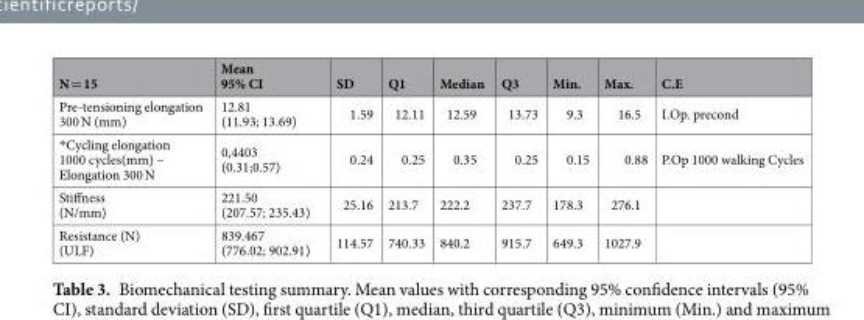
<table><thead><tr><td>N = 15</td><td>Mean 95% CI</td><td>SD</td><td>Q1</td><td>Median</td><td>Q3</td><td>Min.</td><td>Max.</td><td>C.E</td></tr></thead><tbody><tr><td>Pre-tensioning elongation 300 N (mm)</td><td>12.81 (11.93; 13.69)</td><td>1.59</td><td>12.11</td><td>12.59</td><td>13.73</td><td>9.3</td><td>16.5</td><td>I.Op. precond</td></tr><tr><td>*Cycling elongation 1000 cycles(mm) – Elongation 300 N</td><td>0,4403 (0.31;0.57)</td><td>0.24</td><td>0.25</td><td>0.35</td><td>0.25</td><td>0.15</td><td>0.88</td><td>P.Op 1000 walking Cycles</td></tr><tr><td>Stiffness (N/mm)</td><td>221.50 (207.57; 235.43)</td><td>25.16</td><td>213.7</td><td>222.2</td><td>237.7</td><td>178.3</td><td>276.1</td><td></td></tr><tr><td>Resistance (N) (ULF)</td><td>839.467 (776.02; 902.91)</td><td>114.57</td><td>740.33</td><td>840.2</td><td>915.7</td><td>649.3</td><td>1027.9</td><td></td></tr></tbody></table>